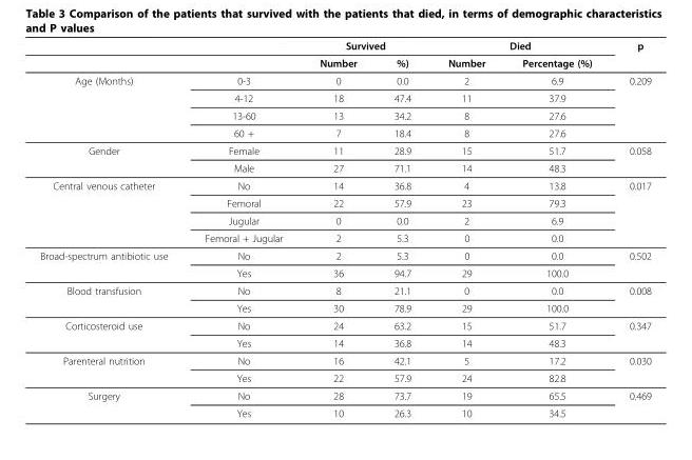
<table><thead><tr><td rowspan="2"></td><td rowspan="2"></td><td colspan="2">Survived</td><td colspan="2">Died</td><td rowspan="2">p</td></tr><tr><td>Number</td><td>%)</td><td>Number</td><td>Percentage (%)</td></tr></thead><tbody><tr><td rowspan="4">Age (Months)</td><td>0-3</td><td>0</td><td>0.0</td><td>2</td><td>6.9</td><td>0.209</td></tr><tr><td>4-12</td><td>18</td><td>47.4</td><td>11</td><td>37.9</td><td></td></tr><tr><td>13-60</td><td>13</td><td>34.2</td><td>8</td><td>27.6</td><td></td></tr><tr><td>60 +</td><td>7</td><td>18.4</td><td>8</td><td>27.6</td><td></td></tr><tr><td rowspan="2">Gender</td><td>Female</td><td>11</td><td>28.9</td><td>15</td><td>51.7</td><td>0.058</td></tr><tr><td>Male</td><td>27</td><td>71.1</td><td>14</td><td>48.3</td><td></td></tr><tr><td rowspan="4">Central venous catheter</td><td>No</td><td>14</td><td>36.8</td><td>4</td><td>13.8</td><td>0.017</td></tr><tr><td>Femoral</td><td>22</td><td>57.9</td><td>23</td><td>79.3</td><td></td></tr><tr><td>Jugular</td><td>0</td><td>0.0</td><td>2</td><td>6.9</td><td></td></tr><tr><td>Femoral + Jugular</td><td>2</td><td>5.3</td><td>0</td><td>0.0</td><td></td></tr><tr><td rowspan="2">Broad-spectrum antibiotic use</td><td>No</td><td>2</td><td>5.3</td><td>0</td><td>0.0</td><td>0.502</td></tr><tr><td>Yes</td><td>36</td><td>94.7</td><td>29</td><td>100.0</td><td></td></tr><tr><td rowspan="2">Blood transfusion</td><td>No</td><td>8</td><td>21.1</td><td>0</td><td>0.0</td><td>0.008</td></tr><tr><td>Yes</td><td>30</td><td>78.9</td><td>29</td><td>100.0</td><td></td></tr><tr><td rowspan="2">Corticosteroid use</td><td>No</td><td>24</td><td>63.2</td><td>15</td><td>51.7</td><td>0.347</td></tr><tr><td>Yes</td><td>14</td><td>36.8</td><td>14</td><td>48.3</td><td></td></tr><tr><td rowspan="2">Parenteral nutrition</td><td>No</td><td>16</td><td>42.1</td><td>5</td><td>17.2</td><td>0.030</td></tr><tr><td>Yes</td><td>22</td><td>57.9</td><td>24</td><td>82.8</td><td></td></tr><tr><td rowspan="2">Surgery</td><td>No</td><td>28</td><td>73.7</td><td>19</td><td>65.5</td><td>0.469</td></tr><tr><td>Yes</td><td>10</td><td>26.3</td><td>10</td><td>34.5</td><td></td></tr></tbody></table>